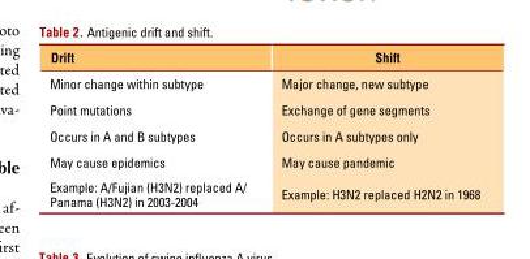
<table><thead><tr><td>Drift</td><td>Shift</td></tr></thead><tbody><tr><td>Minor change within subtype</td><td>Major change, new subtype</td></tr><tr><td>Point mutations</td><td>Exchange of gene segments</td></tr><tr><td>Occurs in A and B subtypes</td><td>Occurs in A subtypes only</td></tr><tr><td>May cause epidemics</td><td>May cause pandemic</td></tr><tr><td>Example: A/Fujian (H3N2) replaced A/ Panama (H3N2) in 2003-2004</td><td>Example: H3N2 replaced H2N2 in 1968</td></tr></tbody></table>